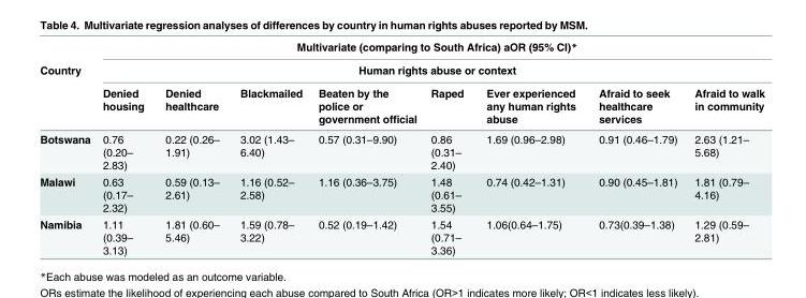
<table><thead><tr><td rowspan="3">Country</td><td rowspan="2" colspan="8">Multivariate (comparing to South Africa) aOR (95% CI)* Human rights abuse or context</td></tr><tr></tr><tr><td>Denied housing</td><td>Denied healthcare</td><td>Blackmailed</td><td>Beaten by the police or government official</td><td>Raped</td><td>Ever experienced any human rights abuse</td><td>Afraid to seek healthcare services</td><td>Afraid to walk in community</td></tr></thead><tbody><tr><td>Botswana</td><td>0.76 (0.20– 2.83)</td><td>0.22 (0.26– 1.91)</td><td>3.02 (1.43– 6.40)</td><td>0.57 (0.31–9.90)</td><td>0.86 (0.31– 2.40)</td><td>1.69 (0.96–2.98)</td><td>0.91 (0.46–1.79)</td><td>2.63 (1.21– 5.68)</td></tr><tr><td>Malawi</td><td>0.63 (0.17– 2.32)</td><td>0.59 (0.13– 2.61)</td><td>1.16 (0.52– 2.58)</td><td>1.16 (0.36–3.75)</td><td>1.48 (0.61– 3.55)</td><td>0.74 (0.42–1.31)</td><td>0.90 (0.45–1.81)</td><td>1.81 (0.79– 4.16)</td></tr><tr><td>Namibia</td><td>1.11 (0.39– 3.13)</td><td>1.81 (0.60– 5.46)</td><td>1.59 (0.78– 3.22)</td><td>0.52 (0.19–1.42)</td><td>1.54 (0.71– 3.36)</td><td>1.06(0.64–1.75)</td><td>0.73(0.39–1.38)</td><td>1.29 (0.59– 2.81)</td></tr></tbody></table>